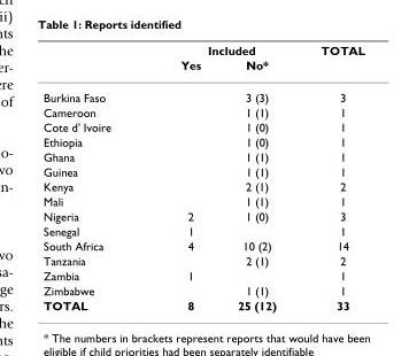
<table><thead><tr><td rowspan="2"></td><td colspan="2">Included</td><td rowspan="2">TOTAL</td></tr><tr><td>Yes</td><td>No*</td></tr></thead><tbody><tr><td>Burkina Faso</td><td></td><td>3 (3)</td><td>3</td></tr><tr><td>Cameroon</td><td></td><td>1 (1)</td><td>1</td></tr><tr><td>Cote d&#x27; Ivoire</td><td></td><td>1 (0)</td><td>1</td></tr><tr><td>Ethiopia</td><td></td><td>1 (0)</td><td>1</td></tr><tr><td>Ghana</td><td></td><td>1 (1)</td><td>1</td></tr><tr><td>Guinea</td><td></td><td>1 (1)</td><td>1</td></tr><tr><td>Kenya</td><td></td><td>2 (1)</td><td>2</td></tr><tr><td>Mali</td><td></td><td>1 (1)</td><td>1</td></tr><tr><td>Nigeria</td><td>2</td><td>1 (0)</td><td>3</td></tr><tr><td>Senegal</td><td>1</td><td></td><td>1</td></tr><tr><td>South Africa</td><td>4</td><td>10 (2)</td><td>14</td></tr><tr><td>Tanzania</td><td></td><td>2 (1)</td><td>2</td></tr><tr><td>Zambia</td><td>1</td><td></td><td>1</td></tr><tr><td>Zimbabwe</td><td></td><td>1 (1)</td><td>1</td></tr><tr><td>TOTAL</td><td>8</td><td>25 (12)</td><td>33</td></tr></tbody></table>